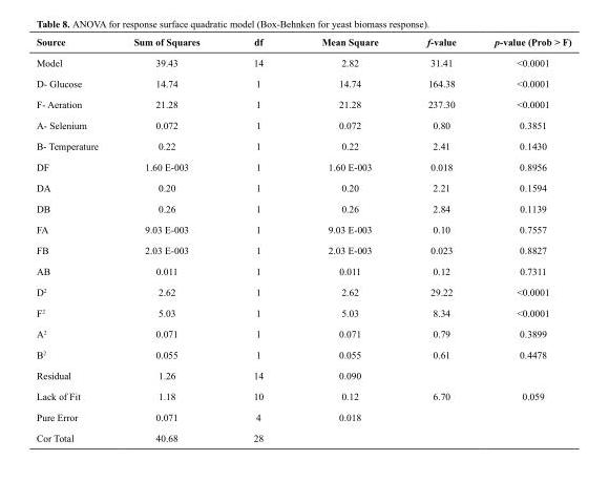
<table><thead><tr><td>Source</td><td>Sum of Squares</td><td>df</td><td>Mean Square</td><td>f-value</td><td>p-value (Prob ˃ F)</td></tr></thead><tbody><tr><td>Model</td><td>39.43</td><td>14</td><td>2.82</td><td>31.41</td><td>˂0.0001</td></tr><tr><td>D- Glucose</td><td>14.74</td><td>1</td><td>14.74</td><td>164.38</td><td>˂0.0001</td></tr><tr><td>F- Aeration</td><td>21.28</td><td>1</td><td>21.28</td><td>237.30</td><td>˂0.0001</td></tr><tr><td>A- Selenium</td><td>0.072</td><td>1</td><td>0.072</td><td>0.80</td><td>0.3851</td></tr><tr><td>B- Temperature</td><td>0.22</td><td>1</td><td>0.22</td><td>2.41</td><td>0.1430</td></tr><tr><td>DF</td><td>1.60 E-003</td><td>1</td><td>1.60 E-003</td><td>0.018</td><td>0.8956</td></tr><tr><td>DA</td><td>0.20</td><td>1</td><td>0.20</td><td>2.21</td><td>0.1594</td></tr><tr><td>DB</td><td>0.26</td><td>1</td><td>0.26</td><td>2.84</td><td>0.1139</td></tr><tr><td>FA</td><td>9.03 E-003</td><td>1</td><td>9.03 E-003</td><td>0.10</td><td>0.7557</td></tr><tr><td>FB</td><td>2.03 E-003</td><td>1</td><td>2.03 E-003</td><td>0.023</td><td>0.8827</td></tr><tr><td>AB</td><td>0.011</td><td>1</td><td>0.011</td><td>0.12</td><td>0.7311</td></tr><tr><td>D<sup>2</sup></td><td>2.62</td><td>1</td><td>2.62</td><td>29.22</td><td>˂0.0001</td></tr><tr><td>F<sup>2</sup></td><td>5.03</td><td>1</td><td>5.03</td><td>8.34</td><td>˂0.0001</td></tr><tr><td>A<sup>2</sup></td><td>0.071</td><td>1</td><td>0.071</td><td>0.79</td><td>0.3899</td></tr><tr><td>B<sup>2</sup></td><td>0.055</td><td>1</td><td>0.055</td><td>0.61</td><td>0.4478</td></tr><tr><td>Residual</td><td>1.26</td><td>14</td><td>0.090</td><td></td><td></td></tr><tr><td>Lack of Fit</td><td>1.18</td><td>10</td><td>0.12</td><td>6.70</td><td>0.059</td></tr><tr><td>Pure Error</td><td>0.071</td><td>4</td><td>0.018</td><td></td><td></td></tr><tr><td>Cor Total</td><td>40.68</td><td>28</td><td></td><td></td><td></td></tr></tbody></table>